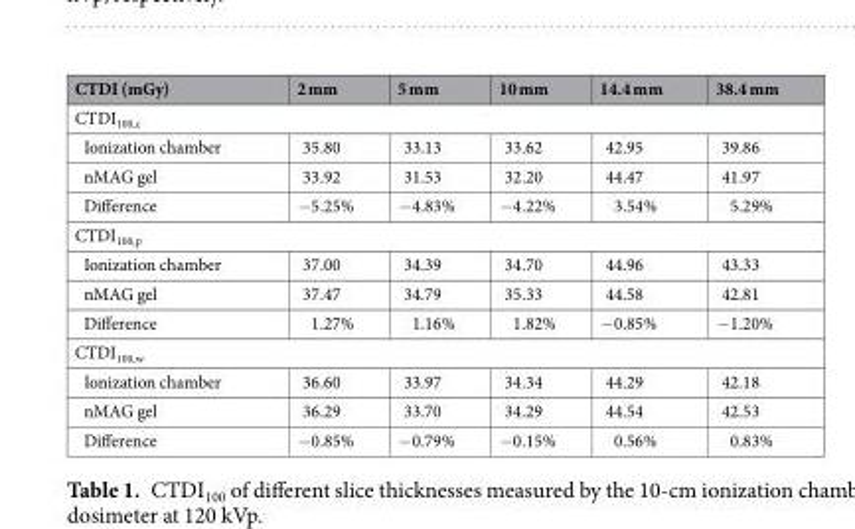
<table><thead><tr><td>CTDI (mGy)</td><td>2 mm</td><td>5 mm</td><td>10 mm</td><td>14.4 mm</td><td>38.4 mm</td></tr></thead><tbody><tr><td colspan="6">CTDI<sub>100,c</sub></td></tr><tr><td>Ionization chamber</td><td>35.80</td><td>33.13</td><td>33.62</td><td>42.95</td><td>39.86</td></tr><tr><td>nMAG gel</td><td>33.92</td><td>31.53</td><td>32.20</td><td>44.47</td><td>41.97</td></tr><tr><td>Difference</td><td>−5.25%</td><td>−4.83%</td><td>−4.22%</td><td>3.54%</td><td>5.29%</td></tr><tr><td colspan="6">CTDI<sub>100,p</sub></td></tr><tr><td>Ionization chamber</td><td>37.00</td><td>34.39</td><td>34.70</td><td>44.96</td><td>43.33</td></tr><tr><td>nMAG gel</td><td>37.47</td><td>34.79</td><td>35.33</td><td>44.58</td><td>42.81</td></tr><tr><td>Difference</td><td>1.27%</td><td>1.16%</td><td>1.82%</td><td>−0.85%</td><td>−1.20%</td></tr><tr><td colspan="6">CTDI<sub>100,w</sub></td></tr><tr><td>Ionization chamber</td><td>36.60</td><td>33.97</td><td>34.34</td><td>44.29</td><td>42.18</td></tr><tr><td>nMAG gel</td><td>36.29</td><td>33.70</td><td>34.29</td><td>44.54</td><td>42.53</td></tr><tr><td>Difference</td><td>−0.85%</td><td>−0.79%</td><td>−0.15%</td><td>0.56%</td><td>0.83%</td></tr></tbody></table>